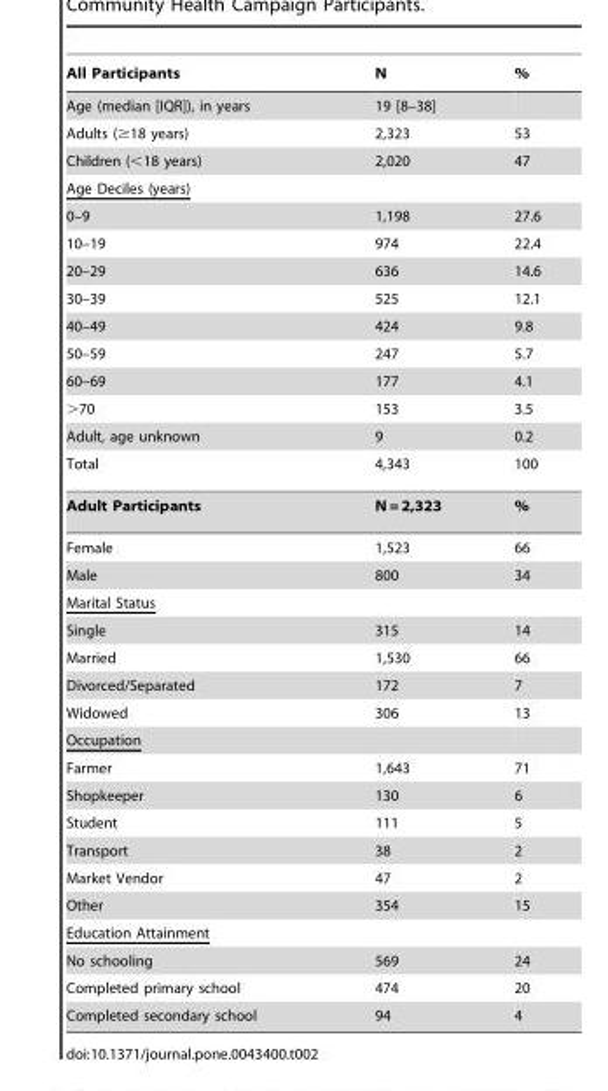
<table><thead><tr><td>All Participants</td><td>N</td><td>%</td></tr></thead><tbody><tr><td>Age (median [IQR]), in years</td><td>19 [8–38]</td><td></td></tr><tr><td>Adults (≥18 years)</td><td>2,323</td><td>53</td></tr><tr><td>Children (&lt;18 years)</td><td>2,020</td><td>47</td></tr><tr><td colspan="3">Age Deciles (years)</td></tr><tr><td>0–9</td><td>1,198</td><td>27.6</td></tr><tr><td>10–19</td><td>974</td><td>22.4</td></tr><tr><td>20–29</td><td>636</td><td>14.6</td></tr><tr><td>30–39</td><td>525</td><td>12.1</td></tr><tr><td>40–49</td><td>424</td><td>9.8</td></tr><tr><td>50–59</td><td>247</td><td>5.7</td></tr><tr><td>60–69</td><td>177</td><td>4.1</td></tr><tr><td>&gt;70</td><td>153</td><td>3.5</td></tr><tr><td>Adult, age unknown</td><td>9</td><td>0.2</td></tr><tr><td>Total</td><td>4,343</td><td>100</td></tr><tr><td>Adult Participants</td><td>N = 2,323</td><td>%</td></tr><tr><td>Female</td><td>1,523</td><td>66</td></tr><tr><td>Male</td><td>800</td><td>34</td></tr><tr><td colspan="3">Marital Status</td></tr><tr><td>Single</td><td>315</td><td>14</td></tr><tr><td>Married</td><td>1,530</td><td>66</td></tr><tr><td>Divorced/Separated</td><td>172</td><td>7</td></tr><tr><td>Widowed</td><td>306</td><td>13</td></tr><tr><td colspan="3">Occupation</td></tr><tr><td>Farmer</td><td>1,643</td><td>71</td></tr><tr><td>Shopkeeper</td><td>130</td><td>6</td></tr><tr><td>Student</td><td>111</td><td>5</td></tr><tr><td>Transport</td><td>38</td><td>2</td></tr><tr><td>Market Vendor</td><td>47</td><td>2</td></tr><tr><td>Other</td><td>354</td><td>15</td></tr><tr><td colspan="3">Education Attainment</td></tr><tr><td>No schooling</td><td>569</td><td>24</td></tr><tr><td>Completed primary school</td><td>474</td><td>20</td></tr><tr><td>Completed secondary school</td><td>94</td><td>4</td></tr></tbody></table>